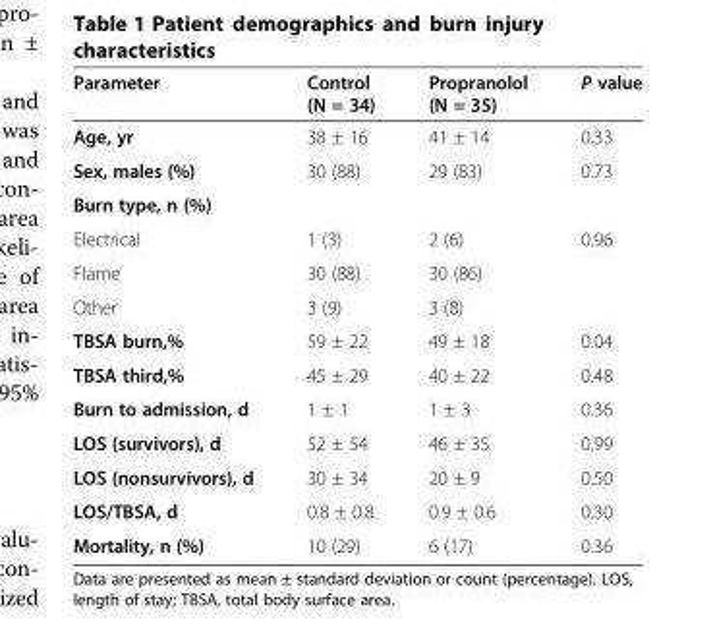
<table><thead><tr><td>Parameter</td><td>Control (N = 34)</td><td>Propranolol (N = 35)</td><td>P value</td></tr></thead><tbody><tr><td>Age, yr</td><td>38 ± 16</td><td>41 ± 14</td><td>0.33</td></tr><tr><td>Sex, males (%)</td><td>30 (88)</td><td>29 (83)</td><td>0.73</td></tr><tr><td colspan="4">Burn type, n (%)</td></tr><tr><td>Electrical</td><td>1 (3)</td><td>2 (6)</td><td rowspan="3">0.96</td></tr><tr><td>Flame</td><td>30 (88)</td><td>30 (86)</td></tr><tr><td>Other</td><td>3 (9)</td><td>3 (8)</td></tr><tr><td>TBSA burn,%</td><td>59 ± 22</td><td>49 ± 18</td><td>0.04</td></tr><tr><td>TBSA third,%</td><td>45 ± 29</td><td>40 ± 22</td><td>0.48</td></tr><tr><td>Burn to admission, d</td><td>1 ± 1</td><td>1 ± 3</td><td>0.36</td></tr><tr><td>LOS (survivors), d</td><td>52 ± 54</td><td>46 ± 35</td><td>0.99</td></tr><tr><td>LOS (nonsurvivors), d</td><td>30 ± 34</td><td>20 ± 9</td><td>0.50</td></tr><tr><td>LOS/TBSA, d</td><td>0.8 ± 0.8</td><td>0.9 ± 0.6</td><td>0.30</td></tr><tr><td>Mortality, n (%)</td><td>10 (29)</td><td>6 (17)</td><td>0.36</td></tr></tbody></table>